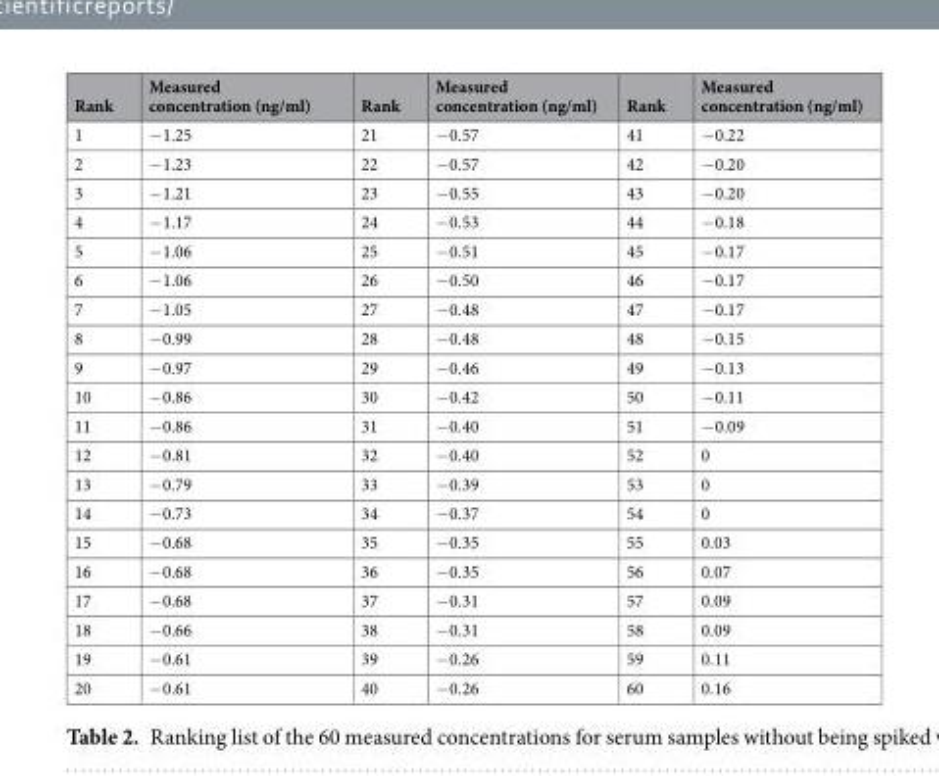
<table><thead><tr><td>Rank</td><td>Measured concentration (ng/ml)</td><td>Rank</td><td>Measured concentration (ng/ml)</td><td>Rank</td><td>Measured concentration (ng/ml)</td></tr></thead><tbody><tr><td>1</td><td>−1.25</td><td>21</td><td>−0.57</td><td>41</td><td>−0.22</td></tr><tr><td>2</td><td>−1.23</td><td>22</td><td>−0.57</td><td>42</td><td>−0.20</td></tr><tr><td>3</td><td>−1.21</td><td>23</td><td>−0.55</td><td>43</td><td>−0.20</td></tr><tr><td>4</td><td>−1.17</td><td>24</td><td>−0.53</td><td>44</td><td>−0.18</td></tr><tr><td>5</td><td>−1.06</td><td>25</td><td>−0.51</td><td>45</td><td>−0.17</td></tr><tr><td>6</td><td>−1.06</td><td>26</td><td>−0.50</td><td>46</td><td>−0.17</td></tr><tr><td>7</td><td>−1.05</td><td>27</td><td>−0.48</td><td>47</td><td>−0.17</td></tr><tr><td>8</td><td>−0.99</td><td>28</td><td>−0.48</td><td>48</td><td>−0.15</td></tr><tr><td>9</td><td>−0.97</td><td>29</td><td>−0.46</td><td>49</td><td>−0.13</td></tr><tr><td>10</td><td>−0.86</td><td>30</td><td>−0.42</td><td>50</td><td>−0.11</td></tr><tr><td>11</td><td>−0.86</td><td>31</td><td>−0.40</td><td>51</td><td>−0.09</td></tr><tr><td>12</td><td>−0.81</td><td>32</td><td>−0.40</td><td>52</td><td>0</td></tr><tr><td>13</td><td>−0.79</td><td>33</td><td>−0.39</td><td>53</td><td>0</td></tr><tr><td>14</td><td>−0.73</td><td>34</td><td>−0.37</td><td>54</td><td>0</td></tr><tr><td>15</td><td>−0.68</td><td>35</td><td>−0.35</td><td>55</td><td>0.03</td></tr><tr><td>16</td><td>−0.68</td><td>36</td><td>−0.35</td><td>56</td><td>0.07</td></tr><tr><td>17</td><td>−0.68</td><td>37</td><td>−0.31</td><td>57</td><td>0.09</td></tr><tr><td>18</td><td>−0.66</td><td>38</td><td>−0.31</td><td>58</td><td>0.09</td></tr><tr><td>19</td><td>−0.61</td><td>39</td><td>−0.26</td><td>59</td><td>0.11</td></tr><tr><td>20</td><td>−0.61</td><td>40</td><td>−0.26</td><td>60</td><td>0.16</td></tr></tbody></table>